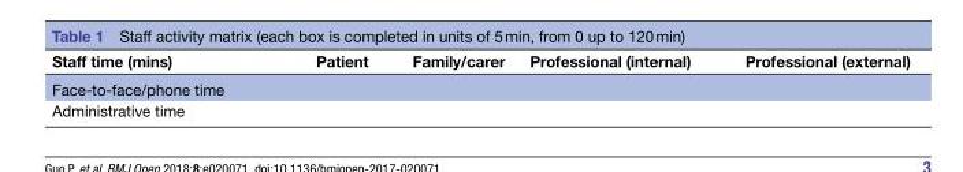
<table><thead><tr><td>Staff time (mins)</td><td>Patient</td><td>Family/carer</td><td>Professional (internal)</td><td>Professional (external)</td></tr></thead><tbody><tr><td colspan="5">Face-to-face/phone time</td></tr><tr><td>Administrative time</td><td></td><td></td><td></td><td></td></tr></tbody></table>